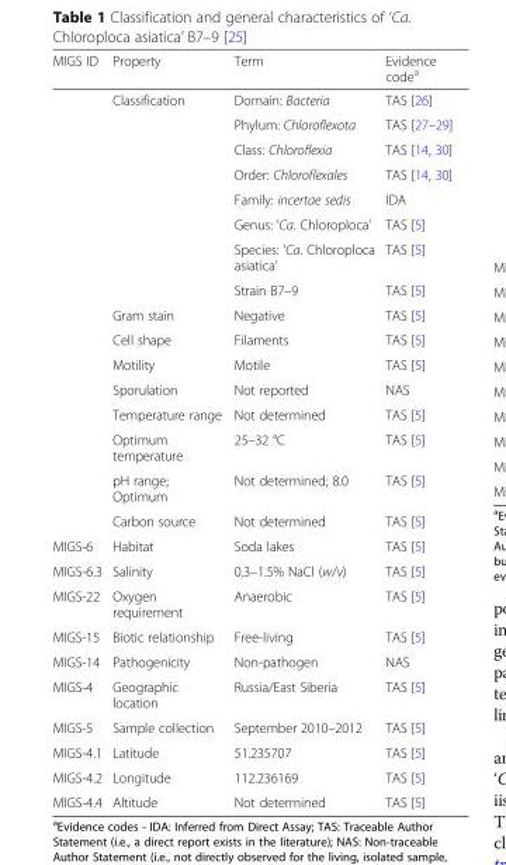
<table><thead><tr><td>MIGS ID</td><td>Property</td><td>Term</td><td>Evidence code<sup>a</sup></td></tr></thead><tbody><tr><td></td><td>Classification</td><td>Domain: Bacteria</td><td>TAS [26]</td></tr><tr><td></td><td></td><td>Phylum: Chloroflexota</td><td>TAS [27–29]</td></tr><tr><td></td><td></td><td>Class: Chloroflexia</td><td>TAS [14, 30]</td></tr><tr><td></td><td></td><td>Order: Chloroflexales</td><td>TAS [14, 30]</td></tr><tr><td></td><td></td><td>Family: incertae sedis</td><td>IDA</td></tr><tr><td></td><td></td><td>Genus: ‘Ca. Chloroploca’</td><td>TAS [5]</td></tr><tr><td></td><td></td><td>Species: ‘Ca. Chloroploca asiatica’</td><td>TAS [5]</td></tr><tr><td></td><td></td><td>Strain B7–9</td><td>TAS [5]</td></tr><tr><td></td><td>Gram stain</td><td>Negative</td><td>TAS [5]</td></tr><tr><td></td><td>Cell shape</td><td>Filaments</td><td>TAS [5]</td></tr><tr><td></td><td>Motility</td><td>Motile</td><td>TAS [5]</td></tr><tr><td></td><td>Sporulation</td><td>Not reported</td><td>NAS</td></tr><tr><td></td><td>Temperature range</td><td>Not determined</td><td>TAS [5]</td></tr><tr><td></td><td>Optimum temperature</td><td>25–32 °C</td><td>TAS [5]</td></tr><tr><td></td><td>pH range; Optimum</td><td>Not determined; 8.0</td><td>TAS [5]</td></tr><tr><td></td><td>Carbon source</td><td>Not determined</td><td>TAS [5]</td></tr><tr><td>MIGS-6</td><td>Habitat</td><td>Soda lakes</td><td>TAS [5]</td></tr><tr><td>MIGS-6.3</td><td>Salinity</td><td>0.3–1.5% NaCl (w/v)</td><td>TAS [5]</td></tr><tr><td>MIGS-22</td><td>Oxygen requirement</td><td>Anaerobic</td><td>TAS [5]</td></tr><tr><td>MIGS-15</td><td>Biotic relationship</td><td>Free-living</td><td>TAS [5]</td></tr><tr><td>MIGS-14</td><td>Pathogenicity</td><td>Non-pathogen</td><td>NAS</td></tr><tr><td>MIGS-4</td><td>Geographic location</td><td>Russia/East Siberia</td><td>TAS [5]</td></tr><tr><td>MIGS-5</td><td>Sample collection</td><td>September 2010–2012</td><td>TAS [5]</td></tr><tr><td>MIGS-4.1</td><td>Latitude</td><td>51.235707</td><td>TAS [5]</td></tr><tr><td>MIGS-4.2</td><td>Longitude</td><td>112.236169</td><td>TAS [5]</td></tr><tr><td>MIGS-4.4</td><td>Altitude</td><td>Not determined</td><td>TAS [5]</td></tr></tbody></table>